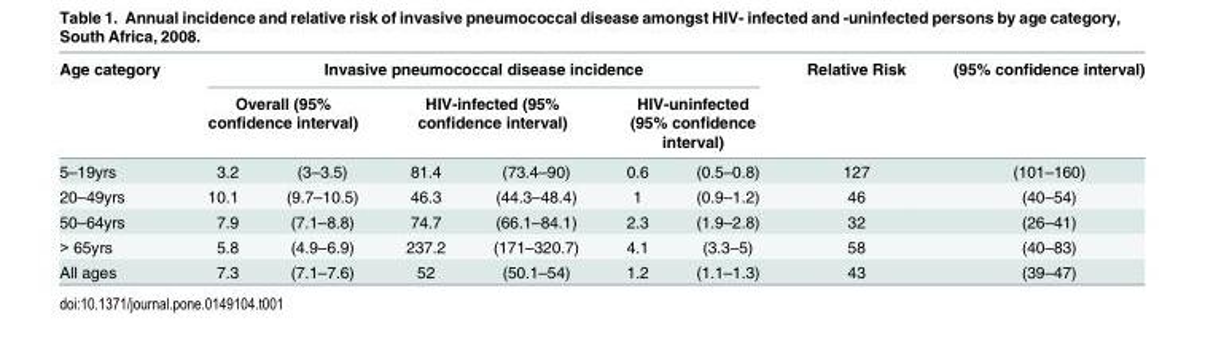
<table><thead><tr><td rowspan="3">Age category 5–19yrs</td><td colspan="6">Invasive pneumococcal disease incidence</td><td rowspan="3">Relative Risk 127</td><td rowspan="3">(95% confidence interval) (101–160)</td></tr><tr><td colspan="2">Overall (95% confidence interval)</td><td colspan="2">HIV-infected (95% confidence interval)</td><td colspan="2">HIV-uninfected (95% confidence interval)</td></tr><tr><td>3.2</td><td>(3–3.5)</td><td>81.4</td><td>(73.4–90)</td><td>0.6</td><td>(0.5–0.8)</td></tr></thead><tbody><tr><td>20–49yrs</td><td>10.1</td><td>(9.7–10.5)</td><td>46.3</td><td>(44.3–48.4)</td><td>1</td><td>(0.9–1.2)</td><td>46</td><td>(40–54)</td></tr><tr><td>50–64yrs</td><td>7.9</td><td>(7.1–8.8)</td><td>74.7</td><td>(66.1–84.1)</td><td>2.3</td><td>(1.9–2.8)</td><td>32</td><td>(26–41)</td></tr><tr><td>&gt; 65yrs</td><td>5.8</td><td>(4.9–6.9)</td><td>237.2</td><td>(171–320.7)</td><td>4.1</td><td>(3.3–5)</td><td>58</td><td>(40–83)</td></tr><tr><td>All ages</td><td>7.3</td><td>(7.1–7.6)</td><td>52</td><td>(50.1–54)</td><td>1.2</td><td>(1.1–1.3)</td><td>43</td><td>(39–47)</td></tr></tbody></table>